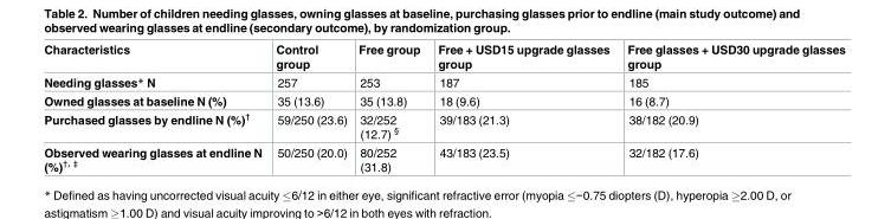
<table><thead><tr><td>Characteristics</td><td>Control group</td><td>Free group</td><td>Free + USD15 upgrade glasses group</td><td>Free glasses + USD30 upgrade glasses group</td></tr></thead><tbody><tr><td>Needing glasses* N</td><td>257</td><td>253</td><td>187</td><td>185</td></tr><tr><td>Owned glasses at baseline N (%)</td><td>35 (13.6)</td><td>35 (13.8)</td><td>18 (9.6)</td><td>16 (8.7)</td></tr><tr><td>Purchased glasses by endline N (%)<sup>†</sup></td><td>59/250 (23.6)</td><td>32/252 (12.7) <sup>§</sup></td><td>39/183 (21.3)</td><td>38/182 (20.9)</td></tr><tr><td>Observed wearing glasses at endline N (%)<sup>†, ‡</sup></td><td>50/250 (20.0)</td><td>80/252 (31.8)</td><td>43/183 (23.5)</td><td>32/182 (17.6)</td></tr></tbody></table>